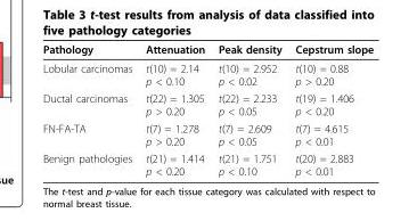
<table><thead><tr><td>Pathology</td><td>Attenuation</td><td>Peak density</td><td>Cepstrum slope</td></tr></thead><tbody><tr><td>Lobular carcinomas</td><td>t(10) = 2.14 p &lt; 0.10</td><td>t(10) = 2.952 p &lt; 0.02</td><td>t(10) = 0.88 p &gt; 0.20</td></tr><tr><td>Ductal carcinomas</td><td>t(22) = 1.305 p &gt; 0.20</td><td>t(22) = 2.233 p &lt; 0.05</td><td>t(19) = 1.406 p &lt; 0.20</td></tr><tr><td>FN-FA-TA</td><td>t(7) = 1.278 p &gt; 0.20</td><td>t(7) = 2.609 p &lt; 0.05</td><td>t(7) = 4.615 p &lt; 0.01</td></tr><tr><td>Benign pathologies</td><td>t(21) = 1.414 p &lt; 0.20</td><td>t(21) = 1.751 p &lt; 0.10</td><td>t(20) = 2.883 p &lt; 0.01</td></tr></tbody></table>